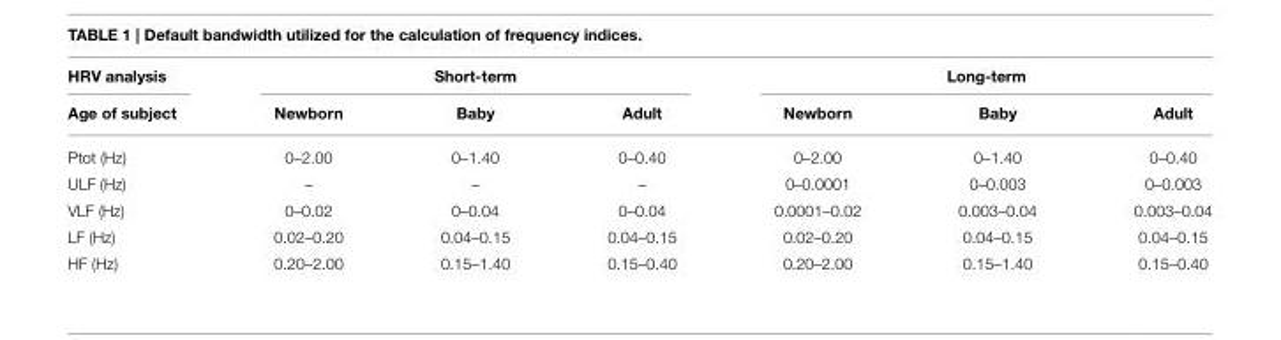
<table><thead><tr><td rowspan="2">HRV analysis Age of subject</td><td colspan="3">Short-term</td><td colspan="3">Long-term</td></tr><tr><td>Newborn</td><td>Baby</td><td>Adult</td><td>Newborn</td><td>Baby</td><td>Adult</td></tr></thead><tbody><tr><td>Ptot (Hz)</td><td>0–2.00</td><td>0–1.40</td><td>0–0.40</td><td>0–2.00</td><td>0–1.40</td><td>0–0.40</td></tr><tr><td>ULF (Hz)</td><td>–</td><td>–</td><td>–</td><td>0–0.0001</td><td>0–0.003</td><td>0–0.003</td></tr><tr><td>VLF (Hz)</td><td>0–0.02</td><td>0–0.04</td><td>0–0.04</td><td>0.0001–0.02</td><td>0.003–0.04</td><td>0.003–0.04</td></tr><tr><td>LF (Hz)</td><td>0.02–0.20</td><td>0.04–0.15</td><td>0.04–0.15</td><td>0.02–0.20</td><td>0.04–0.15</td><td>0.04–0.15</td></tr><tr><td>HF (Hz)</td><td>0.20–2.00</td><td>0.15–1.40</td><td>0.15–0.40</td><td>0.20–2.00</td><td>0.15–1.40</td><td>0.15–0.40</td></tr></tbody></table>